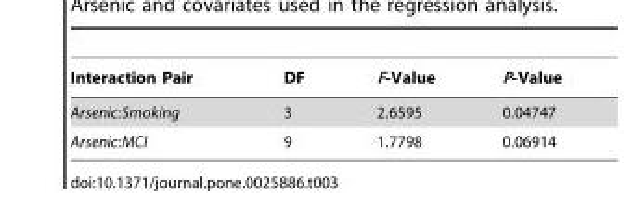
<table><thead><tr><td>Interaction Pair</td><td>DF</td><td>F-Value</td><td>P-Value</td></tr></thead><tbody><tr><td>Arsenic:Smoking</td><td>3</td><td>2.6595</td><td>0.04747</td></tr><tr><td>Arsenic:MCI</td><td>9</td><td>1.7798</td><td>0.06914</td></tr></tbody></table>